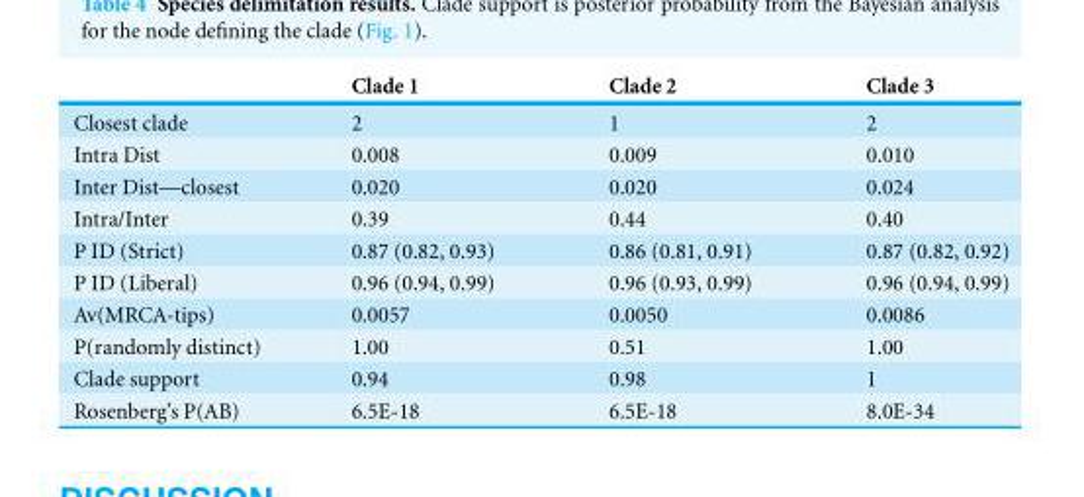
<table><thead><tr><td></td><td>Clade 1</td><td>Clade 2</td><td>Clade 3</td></tr></thead><tbody><tr><td>Closest clade</td><td>2</td><td>1</td><td>2</td></tr><tr><td>Intra Dist</td><td>0.008</td><td>0.009</td><td>0.010</td></tr><tr><td>Inter Dist—closest</td><td>0.020</td><td>0.020</td><td>0.024</td></tr><tr><td>Intra/Inter</td><td>0.39</td><td>0.44</td><td>0.40</td></tr><tr><td>P ID (Strict)</td><td>0.87 (0.82, 0.93)</td><td>0.86 (0.81, 0.91)</td><td>0.87 (0.82, 0.92)</td></tr><tr><td>P ID (Liberal)</td><td>0.96 (0.94, 0.99)</td><td>0.96 (0.93, 0.99)</td><td>0.96 (0.94, 0.99)</td></tr><tr><td>Av(MRCA-tips)</td><td>0.0057</td><td>0.0050</td><td>0.0086</td></tr><tr><td>P(randomly distinct)</td><td>1.00</td><td>0.51</td><td>1.00</td></tr><tr><td>Clade support</td><td>0.94</td><td>0.98</td><td>1</td></tr><tr><td>Rosenberg’s P(AB)</td><td>6.5E-18</td><td>6.5E-18</td><td>8.0E-34</td></tr></tbody></table>